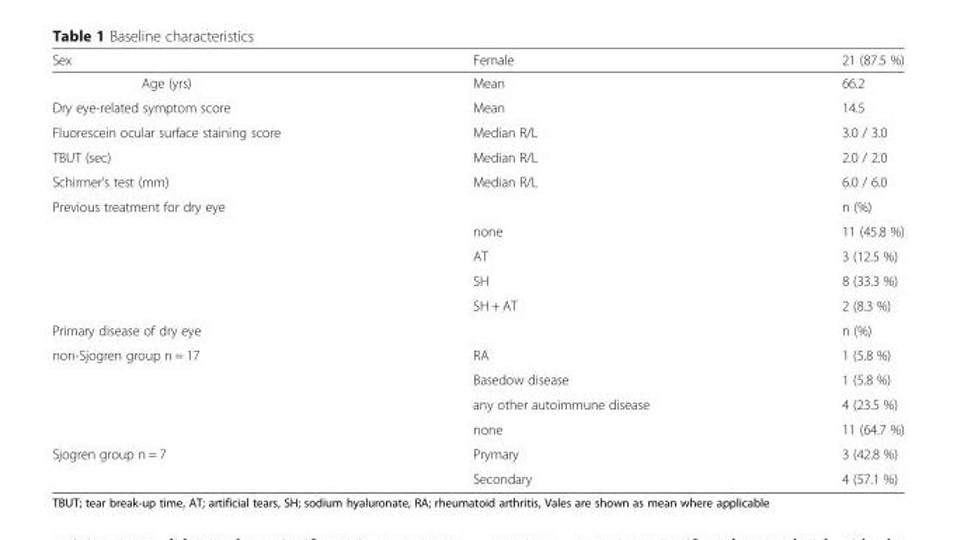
<table><thead><tr><td>Sex</td><td>Female</td><td>21 (87.5 %)</td></tr></thead><tbody><tr><td>Age (yrs)</td><td>Mean</td><td>66.2</td></tr><tr><td>Dry eye-related symptom score</td><td>Mean</td><td>14.5</td></tr><tr><td>Fluorescein ocular surface staining score</td><td>Median R/L</td><td>3.0 / 3.0</td></tr><tr><td>TBUT (sec)</td><td>Median R/L</td><td>2.0 / 2.0</td></tr><tr><td>Schirmer’s test (mm)</td><td>Median R/L</td><td>6.0 / 6.0</td></tr><tr><td colspan="2">Previous treatment for dry eye</td><td>n (%)</td></tr><tr><td></td><td>none</td><td>11 (45.8 %)</td></tr><tr><td></td><td>AT</td><td>3 (12.5 %)</td></tr><tr><td></td><td>SH</td><td>8 (33.3 %)</td></tr><tr><td></td><td>SH + AT</td><td>2 (8.3 %)</td></tr><tr><td colspan="2">Primary disease of dry eye</td><td>n (%)</td></tr><tr><td rowspan="4">non-Sjogren group n = 17</td><td>RA</td><td>1 (5.8 %)</td></tr><tr><td>Basedow disease</td><td>1 (5.8 %)</td></tr><tr><td>any other autoimmune disease</td><td>4 (23.5 %)</td></tr><tr><td>none</td><td>11 (64.7 %)</td></tr><tr><td rowspan="2">Sjogren group n = 7</td><td>Prymary</td><td>3 (42.8 %)</td></tr><tr><td>Secondary</td><td>4 (57.1 %)</td></tr></tbody></table>